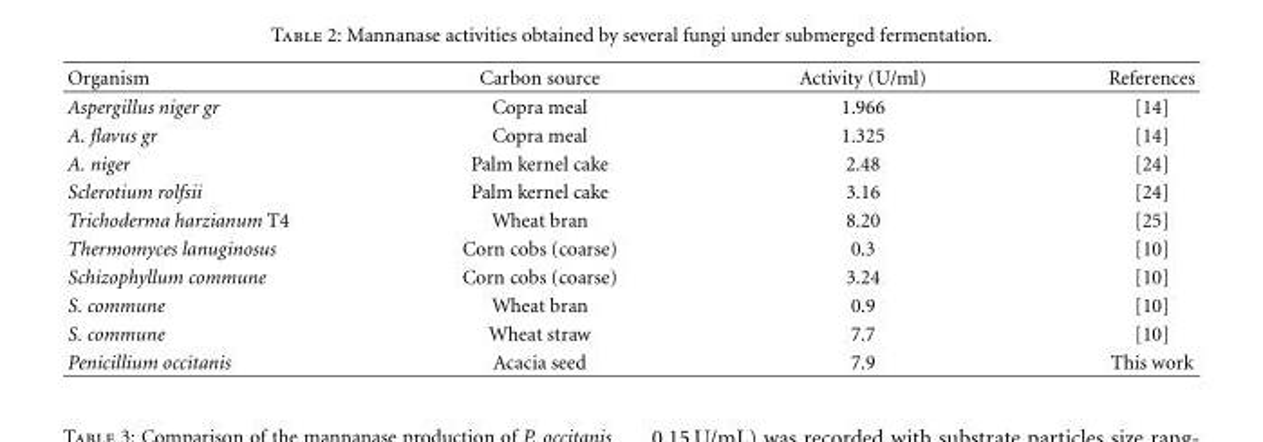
<table><thead><tr><td>Organism</td><td>Carbon source</td><td>Activity (U/ml)</td><td>References</td></tr></thead><tbody><tr><td>Aspergillus niger gr</td><td>Copra meal</td><td>1.966</td><td>[14]</td></tr><tr><td>A. flavus gr</td><td>Copra meal</td><td>1.325</td><td>[14]</td></tr><tr><td>A. niger</td><td>Palm kernel cake</td><td>2.48</td><td>[24]</td></tr><tr><td>Sclerotium rolfsii</td><td>Palm kernel cake</td><td>3.16</td><td>[24]</td></tr><tr><td>Trichoderma harzianum T4</td><td>Wheat bran</td><td>8.20</td><td>[25]</td></tr><tr><td>Thermomyces lanuginosus</td><td>Corn cobs (coarse)</td><td>0.3</td><td>[10]</td></tr><tr><td>Schizophyllum commune</td><td>Corn cobs (coarse)</td><td>3.24</td><td>[10]</td></tr><tr><td>S. commune</td><td>Wheat bran</td><td>0.9</td><td>[10]</td></tr><tr><td>S. commune</td><td>Wheat straw</td><td>7.7</td><td>[10]</td></tr><tr><td>Penicillium occitanis</td><td>Acacia seed</td><td>7.9</td><td>This work</td></tr></tbody></table>